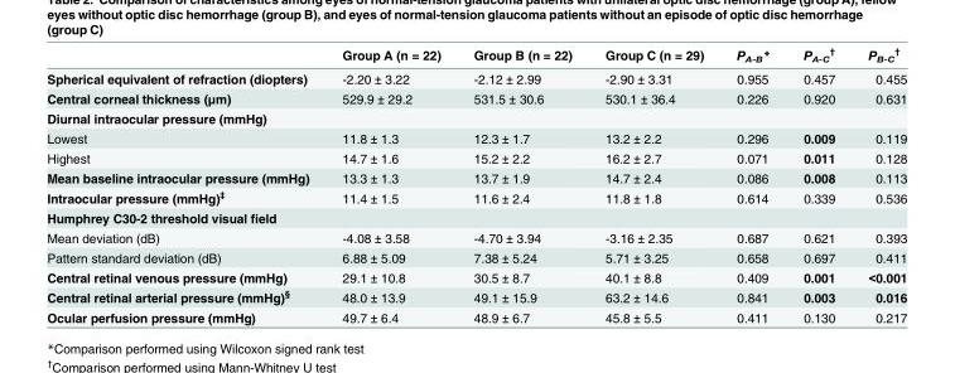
<table><thead><tr><td></td><td>Group A (n = 22)</td><td>Group B (n = 22)</td><td>Group C (n = 29)</td><td>P<sub>A-B</sub>*</td><td>P<sub>A-C</sub> <sup>†</sup></td><td>P<sub>B-C</sub> <sup>†</sup></td></tr></thead><tbody><tr><td>Spherical equivalent of refraction (diopters)</td><td>-2.20 ± 3.22</td><td>-2.12 ± 2.99</td><td>-2.90 ± 3.31</td><td>0.955</td><td>0.457</td><td>0.455</td></tr><tr><td>Central corneal thickness (μm)</td><td>529.9 ± 29.2</td><td>531.5 ± 30.6</td><td>530.1 ± 36.4</td><td>0.226</td><td>0.920</td><td>0.631</td></tr><tr><td colspan="7">Diurnal intraocular pressure (mmHg)</td></tr><tr><td>Lowest</td><td>11.8 ± 1.3</td><td>12.3 ± 1.7</td><td>13.2 ± 2.2</td><td>0.296</td><td>0.009</td><td>0.119</td></tr><tr><td>Highest</td><td>14.7 ± 1.6</td><td>15.2 ± 2.2</td><td>16.2 ± 2.7</td><td>0.071</td><td>0.011</td><td>0.128</td></tr><tr><td>Mean baseline intraocular pressure (mmHg)</td><td>13.3 ± 1.3</td><td>13.7 ± 1.9</td><td>14.7 ± 2.4</td><td>0.086</td><td>0.008</td><td>0.113</td></tr><tr><td>Intraocular pressure (mmHg)<sup>‡</sup></td><td>11.4 ± 1.5</td><td>11.6 ± 2.4</td><td>11.8 ± 1.8</td><td>0.614</td><td>0.339</td><td>0.536</td></tr><tr><td colspan="7">Humphrey C30-2 threshold visual field</td></tr><tr><td>Mean deviation (dB)</td><td>-4.08 ± 3.58</td><td>-4.70 ± 3.94</td><td>-3.16 ± 2.35</td><td>0.687</td><td>0.621</td><td>0.393</td></tr><tr><td>Pattern standard deviation (dB)</td><td>6.88 ± 5.09</td><td>7.38 ± 5.24</td><td>5.71 ± 3.25</td><td>0.658</td><td>0.697</td><td>0.411</td></tr><tr><td>Central retinal venous pressure (mmHg)</td><td>29.1 ± 10.8</td><td>30.5 ± 8.7</td><td>40.1 ± 8.8</td><td>0.409</td><td>0.001</td><td>&lt;0.001</td></tr><tr><td>Central retinal arterial pressure (mmHg)<sup>§</sup></td><td>48.0 ± 13.9</td><td>49.1 ± 15.9</td><td>63.2 ± 14.6</td><td>0.841</td><td>0.003</td><td>0.016</td></tr><tr><td>Ocular perfusion pressure (mmHg)</td><td>49.7 ± 6.4</td><td>48.9 ± 6.7</td><td>45.8 ± 5.5</td><td>0.411</td><td>0.130</td><td>0.217</td></tr></tbody></table>